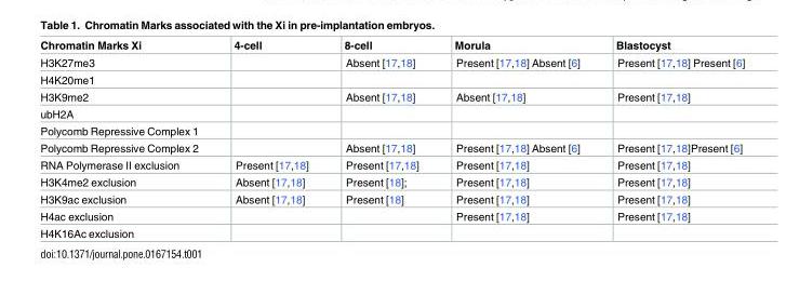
<table><thead><tr><td>Chromatin Marks Xi</td><td>4-cell</td><td>8-cell</td><td>Morula</td><td>Blastocyst</td></tr></thead><tbody><tr><td>H3K27me3</td><td></td><td>Absent [17,18]</td><td>Present [17,18] Absent [6]</td><td>Present [17,18] Present [6]</td></tr><tr><td colspan="5">H4K20me1</td></tr><tr><td>H3K9me2</td><td></td><td>Absent [17,18]</td><td>Absent [17,18]</td><td>Present [17,18]</td></tr><tr><td colspan="5">ubH2A</td></tr><tr><td colspan="5">Polycomb Repressive Complex 1</td></tr><tr><td>Polycomb Repressive Complex 2</td><td></td><td>Absent [17,18]</td><td>Present [17,18] Absent [6]</td><td>Present [17,18]Present [6]</td></tr><tr><td>RNA Polymerase II exclusion</td><td>Present [17,18]</td><td>Present [17,18]</td><td>Present [17,18]</td><td>Present [17,18]</td></tr><tr><td>H3K4me2 exclusion</td><td>Absent [17,18]</td><td>Present [18];</td><td>Present [17,18]</td><td>Present [17,18]</td></tr><tr><td>H3K9ac exclusion</td><td>Absent [17,18]</td><td>Present [18]</td><td>Present [17,18]</td><td>Present [17,18]</td></tr><tr><td>H4ac exclusion</td><td></td><td></td><td>Present [17,18]</td><td>Present [17,18]</td></tr><tr><td>H4K16Ac exclusion</td><td></td><td></td><td></td><td></td></tr></tbody></table>